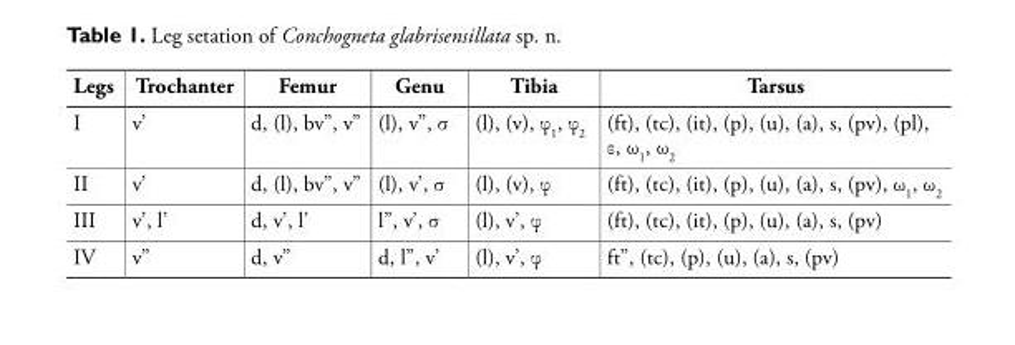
<table><thead><tr><td>Legs</td><td>Trochanter</td><td>Femur</td><td>Genu</td><td>Tibia</td><td>Tarsus</td></tr></thead><tbody><tr><td>I</td><td>v’</td><td>d, (l), bv”, v”</td><td>(l), v”, σ</td><td>(l), (v), φ<sub>1</sub>, φ<sub>2</sub></td><td>(ft), (tc), (it), (p), (u), (a), s, (pv), (pl), ε, ω<sub>1</sub>, ω<sub>2</sub></td></tr><tr><td>II</td><td>v’</td><td>d, (l), bv”, v”</td><td>(l), v’, σ</td><td>(l), (v), φ</td><td>(ft), (tc), (it), (p), (u), (a), s, (pv), ω<sub>1</sub>, ω<sub>2</sub></td></tr><tr><td>III</td><td>v’, l’</td><td>d, v’, l’</td><td>l”, v’, σ</td><td>(l), v’, φ</td><td>(ft), (tc), (it), (p), (u), (a), s, (pv)</td></tr><tr><td>IV</td><td>v”</td><td>d, v”</td><td>d, l”, v’</td><td>(l), v’, φ</td><td>ft”, (tc), (p), (u), (a), s, (pv)</td></tr></tbody></table>